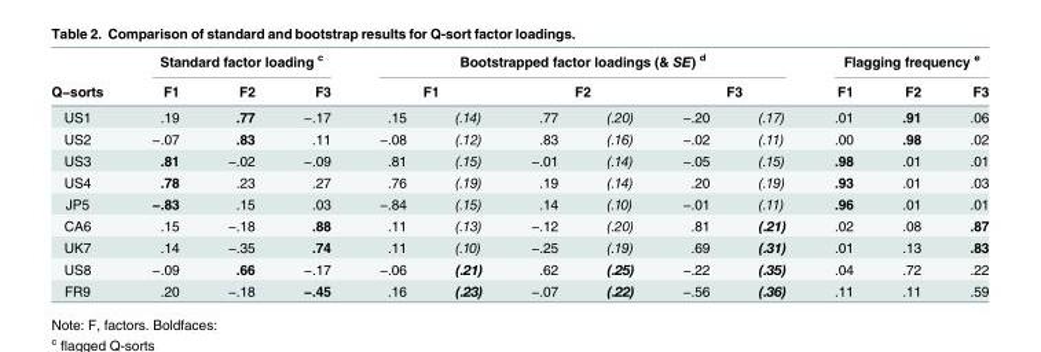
<table><thead><tr><td rowspan="3">Q−sorts US1</td><td colspan="3">Standard factor loading <sup>c</sup></td><td colspan="6">Bootstrapped factor loadings (&amp; SE) <sup>d</sup></td><td colspan="3">Flagging frequency <sup>e</sup></td></tr><tr><td rowspan="2">F1 .19</td><td rowspan="2">F2 .77</td><td rowspan="2">F3 −.17</td><td colspan="2">F1</td><td colspan="2">F2</td><td colspan="2">F3</td><td rowspan="2">F1 .01</td><td rowspan="2">F2 .91</td><td rowspan="2">F3 .06</td></tr><tr><td>.15</td><td>(.14)</td><td>.77</td><td>(.20)</td><td>−.20</td><td>(.17)</td></tr></thead><tbody><tr><td>US2</td><td>−.07</td><td>.83</td><td>.11</td><td>−.08</td><td>(.12)</td><td>.83</td><td>(.16)</td><td>−.02</td><td>(.11)</td><td>.00</td><td>.98</td><td>.02</td></tr><tr><td>US3</td><td>.81</td><td>−.02</td><td>−.09</td><td>.81</td><td>(.15)</td><td>−.01</td><td>(.14)</td><td>−.05</td><td>(.15)</td><td>.98</td><td>.01</td><td>.01</td></tr><tr><td>US4</td><td>.78</td><td>.23</td><td>.27</td><td>.76</td><td>(.19)</td><td>.19</td><td>(.14)</td><td>.20</td><td>(.19)</td><td>.93</td><td>.01</td><td>.03</td></tr><tr><td>JP5</td><td>−.83</td><td>.15</td><td>.03</td><td>−.84</td><td>(.15)</td><td>.14</td><td>(.10)</td><td>−.01</td><td>(.11)</td><td>.96</td><td>.01</td><td>.01</td></tr><tr><td>CA6</td><td>.15</td><td>−.18</td><td>.88</td><td>.11</td><td>(.13)</td><td>−.12</td><td>(.20)</td><td>.81</td><td>(.21)</td><td>.02</td><td>.08</td><td>.87</td></tr><tr><td>UK7</td><td>.14</td><td>−.35</td><td>.74</td><td>.11</td><td>(.10)</td><td>−.25</td><td>(.19)</td><td>.69</td><td>(.31)</td><td>.01</td><td>.13</td><td>.83</td></tr><tr><td>US8</td><td>−.09</td><td>.66</td><td>−.17</td><td>−.06</td><td>(.21)</td><td>.62</td><td>(.25)</td><td>−.22</td><td>(.35)</td><td>.04</td><td>.72</td><td>.22</td></tr><tr><td>FR9</td><td>.20</td><td>−.18</td><td>−.45</td><td>.16</td><td>(.23)</td><td>−.07</td><td>(.22)</td><td>−.56</td><td>(.36)</td><td>.11</td><td>.11</td><td>.59</td></tr></tbody></table>